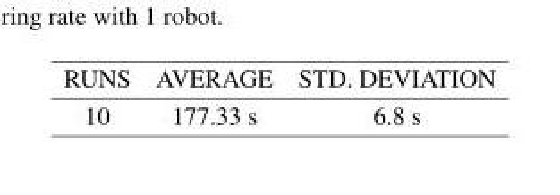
<table><thead><tr><td>RUNS</td><td>AVERAGE</td><td>STD. DEVIATION</td></tr></thead><tbody><tr><td>10</td><td>177.33 s</td><td>6.8 s</td></tr></tbody></table>